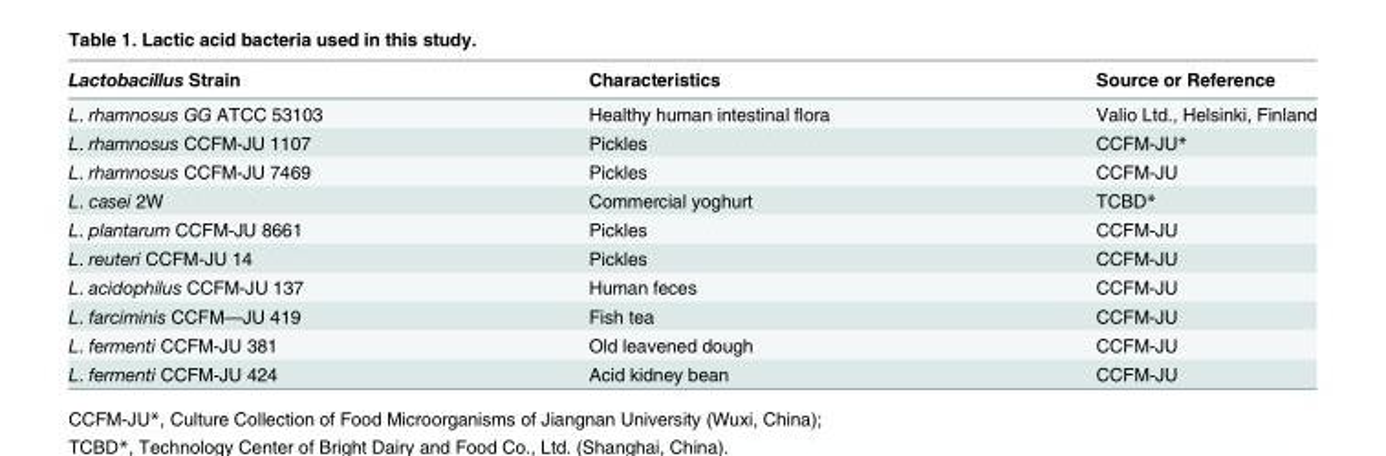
<table><thead><tr><td>Lactobacillus Strain</td><td>Characteristics</td><td>Source or Reference</td></tr></thead><tbody><tr><td>L. rhamnosus GG ATCC 53103</td><td>Healthy human intestinal flora</td><td>Valio Ltd., Helsinki, Finland</td></tr><tr><td>L. rhamnosus CCFM-JU 1107</td><td>Pickles</td><td>CCFM-JU*</td></tr><tr><td>L. rhamnosus CCFM-JU 7469</td><td>Pickles</td><td>CCFM-JU</td></tr><tr><td>L. casei 2W</td><td>Commercial yoghurt</td><td>TCBD*</td></tr><tr><td>L. plantarum CCFM-JU 8661</td><td>Pickles</td><td>CCFM-JU</td></tr><tr><td>L. reuteri CCFM-JU 14</td><td>Pickles</td><td>CCFM-JU</td></tr><tr><td>L. acidophilus CCFM-JU 137</td><td>Human feces</td><td>CCFM-JU</td></tr><tr><td>L. farciminis CCFM—JU 419</td><td>Fish tea</td><td>CCFM-JU</td></tr><tr><td>L. fermenti CCFM-JU 381</td><td>Old leavened dough</td><td>CCFM-JU</td></tr><tr><td>L. fermenti CCFM-JU 424</td><td>Acid kidney bean</td><td>CCFM-JU</td></tr></tbody></table>